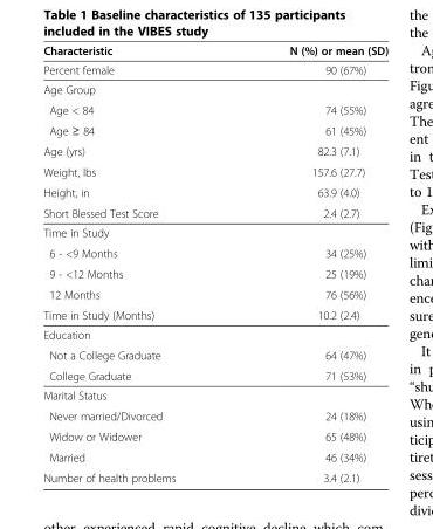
<table><thead><tr><td>Characteristic</td><td>N (%) or mean (SD)</td></tr></thead><tbody><tr><td>Percent female</td><td>90 (67%)</td></tr><tr><td colspan="2">Age Group</td></tr><tr><td>Age &lt; 84</td><td>74 (55%)</td></tr><tr><td>Age ≥ 84</td><td>61 (45%)</td></tr><tr><td>Age (yrs)</td><td>82.3 (7.1)</td></tr><tr><td>Weight, lbs</td><td>157.6 (27.7)</td></tr><tr><td>Height, in</td><td>63.9 (4.0)</td></tr><tr><td>Short Blessed Test Score</td><td>2.4 (2.7)</td></tr><tr><td colspan="2">Time in Study</td></tr><tr><td>6 - &lt;9 Months</td><td>34 (25%)</td></tr><tr><td>9 - &lt;12 Months</td><td>25 (19%)</td></tr><tr><td>12 Months</td><td>76 (56%)</td></tr><tr><td>Time in Study (Months)</td><td>10.2 (2.4)</td></tr><tr><td colspan="2">Education</td></tr><tr><td>Not a College Graduate</td><td>64 (47%)</td></tr><tr><td>College Graduate</td><td>71 (53%)</td></tr><tr><td colspan="2">Marital Status</td></tr><tr><td>Never married/Divorced</td><td>24 (18%)</td></tr><tr><td>Widow or Widower</td><td>65 (48%)</td></tr><tr><td>Married</td><td>46 (34%)</td></tr><tr><td>Number of health problems</td><td>3.4 (2.1)</td></tr></tbody></table>